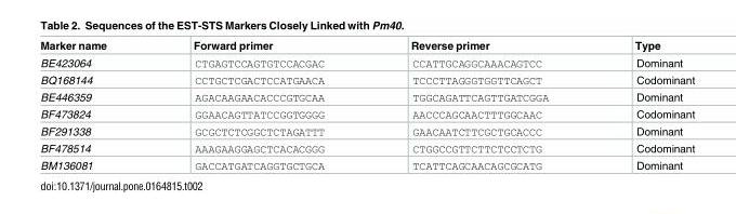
<table><thead><tr><td>Marker name</td><td>Forward primer</td><td>Reverse primer</td><td>Type</td></tr></thead><tbody><tr><td>BE423064</td><td>CTGAGTCCAGTGTCCACGAC</td><td>CCATTGCAGGCAAACAGTCC</td><td>Dominant</td></tr><tr><td>BQ168144</td><td>CCTGCTCGACTCCATGAACA</td><td>TCCCTTAGGGTGGTTCAGCT</td><td>Codominant</td></tr><tr><td>BE446359</td><td>AGACAAGAACACCCGTGCAA</td><td>TGGCAGATTCAGTTGATCGGA</td><td>Dominant</td></tr><tr><td>BF473824</td><td>GGAACAGTTATCCGGTGGGG</td><td>AACCCAGCAACTTTGGCAAC</td><td>Codominant</td></tr><tr><td>BF291338</td><td>GCGCTCTCGGCTCTAGATTT</td><td>GAACAATCTTCGCTGCACCC</td><td>Dominant</td></tr><tr><td>BF478514</td><td>AAAGAAGGAGCTCACACGGG</td><td>CTGGCCGTTCTTCTCCTCTG</td><td>Codominant</td></tr><tr><td>BM136081</td><td>GACCATGATCAGGTGCTGCA</td><td>TCATTCAGCAACAGCGCATG</td><td>Dominant</td></tr></tbody></table>